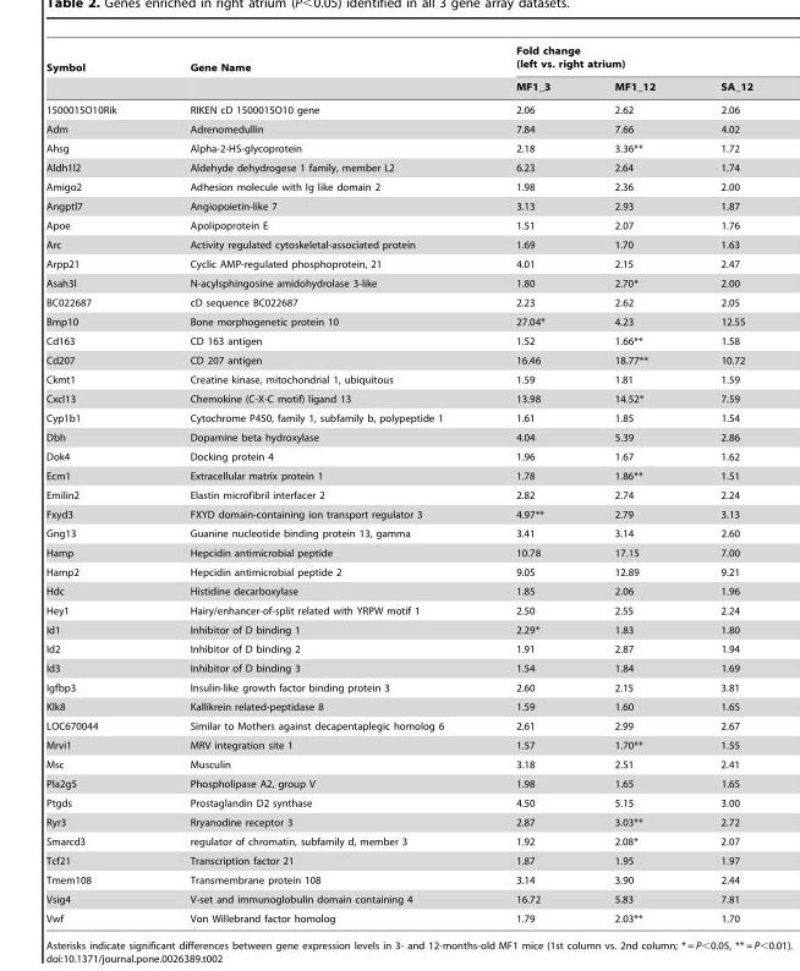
<table><thead><tr><td rowspan="2">Symbol</td><td rowspan="2">Gene Name</td><td colspan="3">Fold change (left vs. right atrium)</td></tr><tr><td>MF1_3</td><td>MF1_12</td><td>SA_12</td></tr></thead><tbody><tr><td>1500015O10Rik</td><td>RIKEN cD 1500015O10 gene</td><td>2.06</td><td>2.62</td><td>2.06</td></tr><tr><td>Adm</td><td>Adrenomedullin</td><td>7.84</td><td>7.66</td><td>4.02</td></tr><tr><td>Ahsg</td><td>Alpha-2-HS-glycoprotein</td><td>2.18</td><td>3.36**</td><td>1.72</td></tr><tr><td>Aldh1l2</td><td>Aldehyde dehydrogese 1 family, member L2</td><td>6.23</td><td>2.64</td><td>1.74</td></tr><tr><td>Amigo2</td><td>Adhesion molecule with Ig like domain 2</td><td>1.98</td><td>2.36</td><td>2.00</td></tr><tr><td>Angptl7</td><td>Angiopoietin-like 7</td><td>3.13</td><td>2.93</td><td>1.87</td></tr><tr><td>Apoe</td><td>Apolipoprotein E</td><td>1.51</td><td>2.07</td><td>1.76</td></tr><tr><td>Arc</td><td>Activity regulated cytoskeletal-associated protein</td><td>1.69</td><td>1.70</td><td>1.63</td></tr><tr><td>Arpp21</td><td>Cyclic AMP-regulated phosphoprotein, 21</td><td>4.01</td><td>2.15</td><td>2.47</td></tr><tr><td>Asah3l</td><td>N-acylsphingosine amidohydrolase 3-like</td><td>1.80</td><td>2.70*</td><td>2.00</td></tr><tr><td>BC022687</td><td>cD sequence BC022687</td><td>2.23</td><td>2.62</td><td>2.05</td></tr><tr><td>Bmp10</td><td>Bone morphogenetic protein 10</td><td>27.04*</td><td>4.23</td><td>12.55</td></tr><tr><td>Cd163</td><td>CD 163 antigen</td><td>1.52</td><td>1.66**</td><td>1.58</td></tr><tr><td>Cd207</td><td>CD 207 antigen</td><td>16.46</td><td>18.77**</td><td>10.72</td></tr><tr><td>Ckmt1</td><td>Creatine kinase, mitochondrial 1, ubiquitous</td><td>1.59</td><td>1.81</td><td>1.59</td></tr><tr><td>Cxcl13</td><td>Chemokine (C-X-C motif) ligand 13</td><td>13.98</td><td>14.52*</td><td>7.59</td></tr><tr><td>Cyp1b1</td><td>Cytochrome P450, family 1, subfamily b, polypeptide 1</td><td>1.61</td><td>1.85</td><td>1.54</td></tr><tr><td>Dbh</td><td>Dopamine beta hydroxylase</td><td>4.04</td><td>5.39</td><td>2.86</td></tr><tr><td>Dok4</td><td>Docking protein 4</td><td>1.96</td><td>1.67</td><td>1.62</td></tr><tr><td>Ecm1</td><td>Extracellular matrix protein 1</td><td>1.78</td><td>1.86**</td><td>1.51</td></tr><tr><td>Emilin2</td><td>Elastin microfibril interfacer 2</td><td>2.82</td><td>2.74</td><td>2.24</td></tr><tr><td>Fxyd3</td><td>FXYD domain-containing ion transport regulator 3</td><td>4.97**</td><td>2.79</td><td>3.13</td></tr><tr><td>Gng13</td><td>Guanine nucleotide binding protein 13, gamma</td><td>3.41</td><td>3.14</td><td>2.60</td></tr><tr><td>Hamp</td><td>Hepcidin antimicrobial peptide</td><td>10.78</td><td>17.15</td><td>7.00</td></tr><tr><td>Hamp2</td><td>Hepcidin antimicrobial peptide 2</td><td>9.05</td><td>12.89</td><td>9.21</td></tr><tr><td>Hdc</td><td>Histidine decarboxylase</td><td>1.85</td><td>2.06</td><td>1.96</td></tr><tr><td>Hey1</td><td>Hairy/enhancer-of-split related with YRPW motif 1</td><td>2.50</td><td>2.55</td><td>2.24</td></tr><tr><td>Id1</td><td>Inhibitor of D binding 1</td><td>2.29*</td><td>1.83</td><td>1.80</td></tr><tr><td>Id2</td><td>Inhibitor of D binding 2</td><td>1.91</td><td>2.87</td><td>1.94</td></tr><tr><td>Id3</td><td>Inhibitor of D binding 3</td><td>1.54</td><td>1.84</td><td>1.69</td></tr><tr><td>Igfbp3</td><td>Insulin-like growth factor binding protein 3</td><td>2.60</td><td>2.15</td><td>3.81</td></tr><tr><td>Klk8</td><td>Kallikrein related-peptidase 8</td><td>1.59</td><td>1.60</td><td>1.65</td></tr><tr><td>LOC670044</td><td>Similar to Mothers against decapentaplegic homolog 6</td><td>2.61</td><td>2.99</td><td>2.67</td></tr><tr><td>Mrvi1</td><td>MRV integration site 1</td><td>1.57</td><td>1.70**</td><td>1.55</td></tr><tr><td>Msc</td><td>Musculin</td><td>3.18</td><td>2.51</td><td>2.41</td></tr><tr><td>Pla2g5</td><td>Phospholipase A2, group V</td><td>1.98</td><td>1.65</td><td>1.65</td></tr><tr><td>Ptgds</td><td>Prostaglandin D2 synthase</td><td>4.50</td><td>5.15</td><td>3.00</td></tr><tr><td>Ryr3</td><td>Rryanodine receptor 3</td><td>2.87</td><td>3.03**</td><td>2.72</td></tr><tr><td>Smarcd3</td><td>regulator of chromatin, subfamily d, member 3</td><td>1.92</td><td>2.08*</td><td>2.07</td></tr><tr><td>Tcf21</td><td>Transcription factor 21</td><td>1.87</td><td>1.95</td><td>1.97</td></tr><tr><td>Tmem108</td><td>Transmembrane protein 108</td><td>3.14</td><td>3.90</td><td>2.44</td></tr><tr><td>Vsig4</td><td>V-set and immunoglobulin domain containing 4</td><td>16.72</td><td>5.83</td><td>7.81</td></tr><tr><td>Vwf</td><td>Von Willebrand factor homolog</td><td>1.79</td><td>2.03**</td><td>1.70</td></tr></tbody></table>